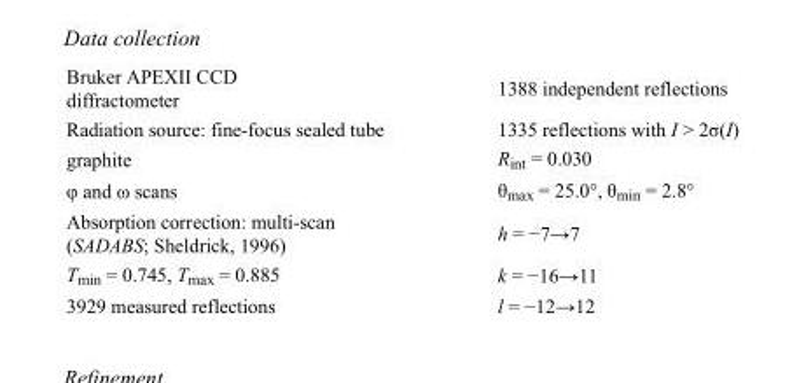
<table><tbody><tr><td>Bruker APEXII CCD diffractometer</td><td>1388 independent reflections</td></tr><tr><td>Radiation source: fine-focus sealed tube</td><td>1335 reflections with I &gt; 2σ(I)</td></tr><tr><td>graphite</td><td>R<sub>int</sub> = 0.030</td></tr><tr><td>φ and ω scans</td><td>θ<sub>max</sub> = 25.0°, θ<sub>min</sub> = 2.8°</td></tr><tr><td>Absorption correction: multi-scan (SADABS; Sheldrick, 1996)</td><td>h = −7→7</td></tr><tr><td>T<sub>min</sub> = 0.745, T<sub>max</sub> = 0.885</td><td>k = −16→11</td></tr><tr><td>3929 measured reflections</td><td>l = −12→12</td></tr></tbody></table>